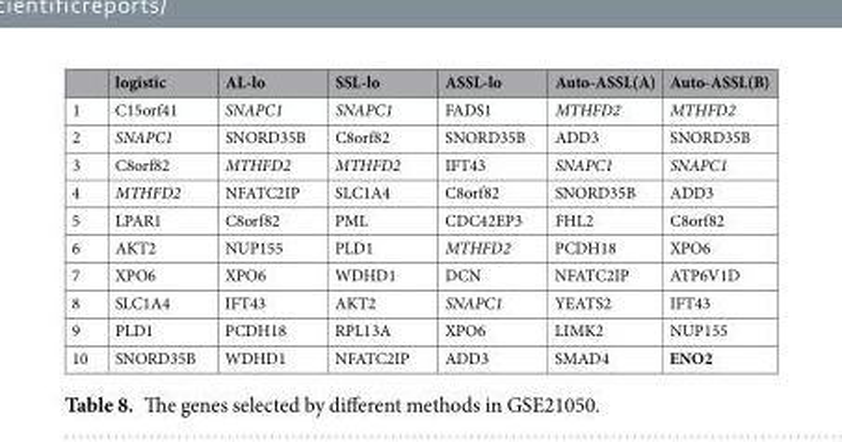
<table><thead><tr><td></td><td>logistic</td><td>AL-lo</td><td>SSL-lo</td><td>ASSL-lo</td><td>Auto-ASSL(A)</td><td>Auto-ASSL(B)</td></tr></thead><tbody><tr><td>1</td><td>C15orf41</td><td>SNAPC1</td><td>SNAPC1</td><td>FADS1</td><td>MTHFD2</td><td>MTHFD2</td></tr><tr><td>2</td><td>SNAPC1</td><td>SNORD35B</td><td>C8orf82</td><td>SNORD35B</td><td>ADD3</td><td>SNORD35B</td></tr><tr><td>3</td><td>C8orf82</td><td>MTHFD2</td><td>MTHFD2</td><td>IFT43</td><td>SNAPC1</td><td>SNAPC1</td></tr><tr><td>4</td><td>MTHFD2</td><td>NFATC2IP</td><td>SLC1A4</td><td>C8orf82</td><td>SNORD35B</td><td>ADD3</td></tr><tr><td>5</td><td>LPAR1</td><td>C8orf82</td><td>PML</td><td>CDC42EP3</td><td>FHL2</td><td>C8orf82</td></tr><tr><td>6</td><td>AKT2</td><td>NUP155</td><td>PLD1</td><td>MTHFD2</td><td>PCDH18</td><td>XPO6</td></tr><tr><td>7</td><td>XPO6</td><td>XPO6</td><td>WDHD1</td><td>DCN</td><td>NFATC2IP</td><td>ATP6V1D</td></tr><tr><td>8</td><td>SLC1A4</td><td>IFT43</td><td>AKT2</td><td>SNAPC1</td><td>YEATS2</td><td>IFT43</td></tr><tr><td>9</td><td>PLD1</td><td>PCDH18</td><td>RPL13A</td><td>XPO6</td><td>LIMK2</td><td>NUP155</td></tr><tr><td>10</td><td>SNORD35B</td><td>WDHD1</td><td>NFATC2IP</td><td>ADD3</td><td>SMAD4</td><td>ENO2</td></tr></tbody></table>